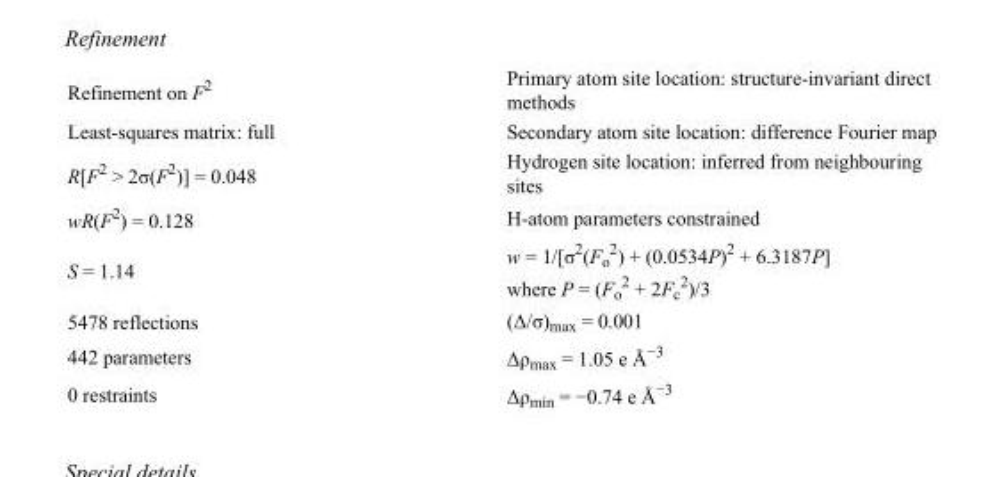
<table><tbody><tr><td>Refinement on F<sup>2</sup></td><td>Primary atom site location: structure-invariant direct methods</td></tr><tr><td>Least-squares matrix: full</td><td>Secondary atom site location: difference Fourier map</td></tr><tr><td>R[F<sup>2</sup> &gt; 2σ(F<sup>2</sup>)] = 0.048</td><td>Hydrogen site location: inferred from neighbouring sites</td></tr><tr><td>wR(F<sup>2</sup>) = 0.128</td><td>H-atom parameters constrained</td></tr><tr><td>S = 1.14</td><td>w = 1/[σ<sup>2</sup>(F<sub>o</sub> <sup>2</sup>) + (0.0534P)<sup>2</sup> + 6.3187P] where P = (F<sub>o</sub> <sup>2</sup> + 2F<sub>c</sub> <sup>2</sup>)/3</td></tr><tr><td>5478 reflections</td><td>(Δ/σ)<sub>max</sub> = 0.001</td></tr><tr><td>442 parameters</td><td>Δρ<sub>max</sub> = 1.05 e Å<sup>−3</sup></td></tr><tr><td>0 restraints</td><td>Δρ<sub>min</sub> = −0.74 e Å<sup>−3</sup></td></tr></tbody></table>